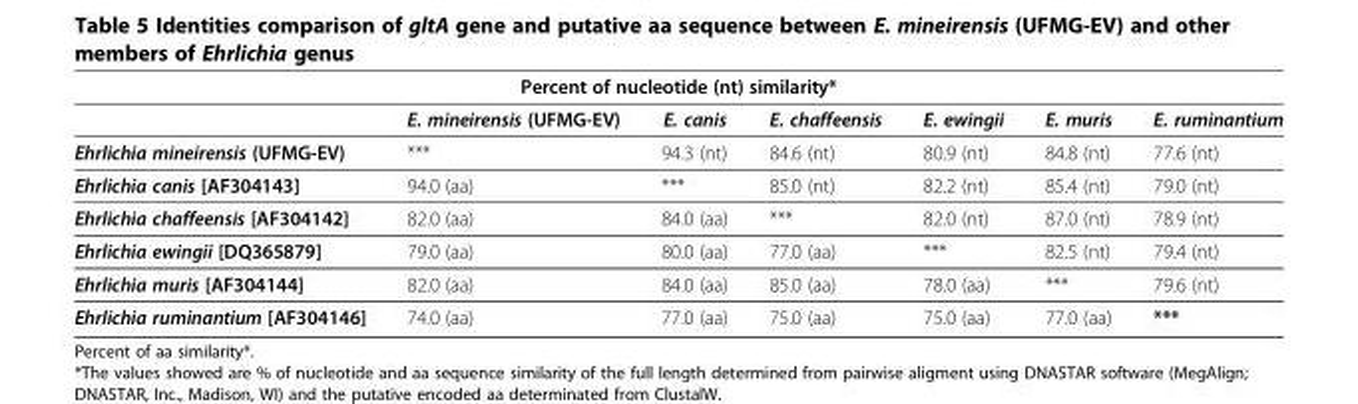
<table><thead><tr><td colspan="7">Percent of nucleotide (nt) similarity*</td></tr><tr><td></td><td>E. mineirensis (UFMG-EV)</td><td>E. canis</td><td>E. chaffeensis</td><td>E. ewingii</td><td>E. muris</td><td>E. ruminantium</td></tr></thead><tbody><tr><td>Ehrlichia mineirensis (UFMG-EV)</td><td>***</td><td>94.3 (nt)</td><td>84.6 (nt)</td><td>80.9 (nt)</td><td>84.8 (nt)</td><td>77.6 (nt)</td></tr><tr><td>Ehrlichia canis [AF304143]</td><td>94.0 (aa)</td><td>***</td><td>85.0 (nt)</td><td>82.2 (nt)</td><td>85.4 (nt)</td><td>79.0 (nt)</td></tr><tr><td>Ehrlichia chaffeensis [AF304142]</td><td>82.0 (aa)</td><td>84.0 (aa)</td><td>***</td><td>82.0 (nt)</td><td>87.0 (nt)</td><td>78.9 (nt)</td></tr><tr><td>Ehrlichia ewingii [DQ365879]</td><td>79.0 (aa)</td><td>80.0 (aa)</td><td>77.0 (aa)</td><td>***</td><td>82.5 (nt)</td><td>79.4 (nt)</td></tr><tr><td>Ehrlichia muris [AF304144]</td><td>82.0 (aa)</td><td>84.0 (aa)</td><td>85.0 (aa)</td><td>78.0 (aa)</td><td>***</td><td>79.6 (nt)</td></tr><tr><td>Ehrlichia ruminantium [AF304146]</td><td>74.0 (aa)</td><td>77.0 (aa)</td><td>75.0 (aa)</td><td>75.0 (aa)</td><td>77.0 (aa)</td><td>***</td></tr></tbody></table>